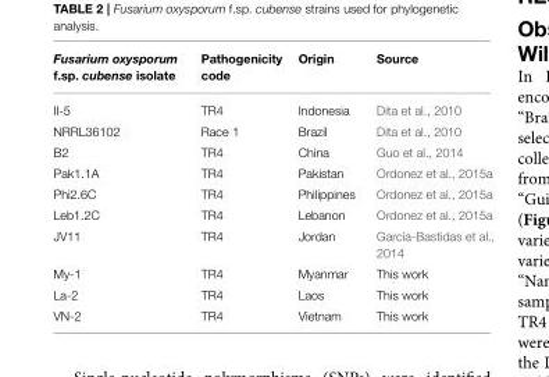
<table><thead><tr><td>Fusarium oxysporum f.sp. cubense isolate</td><td>Pathogenicity code</td><td>Origin</td><td>Source</td></tr></thead><tbody><tr><td>II-5</td><td>TR4</td><td>Indonesia</td><td>Dita et al., 2010</td></tr><tr><td>NRRL36102</td><td>Race 1</td><td>Brazil</td><td>Dita et al., 2010</td></tr><tr><td>B2</td><td>TR4</td><td>China</td><td>Guo et al., 2014</td></tr><tr><td>Pak1.1A</td><td>TR4</td><td>Pakistan</td><td>Ordonez et al., 2015a</td></tr><tr><td>Phi2.6C</td><td>TR4</td><td>Philippines</td><td>Ordonez et al., 2015a</td></tr><tr><td>Leb1.2C</td><td>TR4</td><td>Lebanon</td><td>Ordonez et al., 2015a</td></tr><tr><td>JV11</td><td>TR4</td><td>Jordan</td><td>García-Bastidas et al., 2014</td></tr><tr><td>My-1</td><td>TR4</td><td>Myanmar</td><td>This work</td></tr><tr><td>La-2</td><td>TR4</td><td>Laos</td><td>This work</td></tr><tr><td>VN-2</td><td>TR4</td><td>Vietnam</td><td>This work</td></tr></tbody></table>